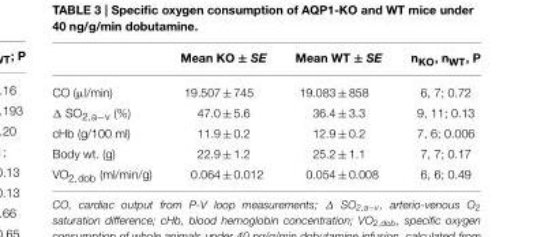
<table><thead><tr><td></td><td>Mean KO ± SE</td><td>Mean WT ± SE</td><td>n<sub>KO</sub>, n<sub>WT</sub>, P</td></tr></thead><tbody><tr><td>CO (µl/min)</td><td>19.507 ± 745</td><td>19.083 ± 858</td><td>6, 7; 0.72</td></tr><tr><td>Δ SO<sub>2,a−v</sub> (%)</td><td>47.0 ± 5.6</td><td>36.4 ± 3.3</td><td>9, 11; 0.13</td></tr><tr><td>cHb (g/100 ml)</td><td>11.9 ± 0.2</td><td>12.9 ± 0.2</td><td>7, 6; 0.006</td></tr><tr><td>Body wt. (g)</td><td>22.9 ± 1.2</td><td>25.2 ± 1.1</td><td>7, 7; 0.17</td></tr><tr><td>VO<sub>2,dob</sub> (ml/min/g)</td><td>0.064 ± 0.012</td><td>0.054 ± 0.008</td><td>6, 6; 0.49</td></tr></tbody></table>